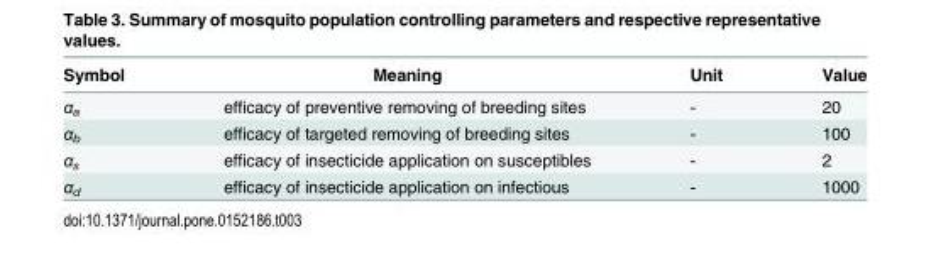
<table><thead><tr><td>Symbol</td><td>Meaning</td><td>Unit</td><td>Value</td></tr></thead><tbody><tr><td>α<sub>a</sub></td><td>efficacy of preventive removing of breeding sites</td><td>-</td><td>20</td></tr><tr><td>α<sub>b</sub></td><td>efficacy of targeted removing of breeding sites</td><td>-</td><td>100</td></tr><tr><td>α<sub>s</sub></td><td>efficacy of insecticide application on susceptibles</td><td>-</td><td>2</td></tr><tr><td>α<sub>d</sub></td><td>efficacy of insecticide application on infectious</td><td>-</td><td>1000</td></tr></tbody></table>